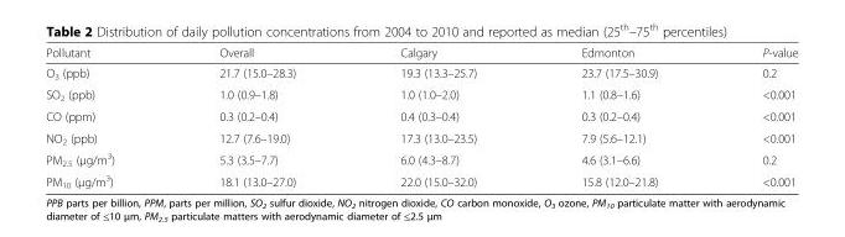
<table><thead><tr><td>Pollutant</td><td>Overall</td><td>Calgary</td><td>Edmonton</td><td>P-value</td></tr></thead><tbody><tr><td>O<sub>3</sub> (ppb)</td><td>21.7 (15.0–28.3)</td><td>19.3 (13.3–25.7)</td><td>23.7 (17.5–30.9)</td><td>0.2</td></tr><tr><td>SO<sub>2</sub> (ppb)</td><td>1.0 (0.9–1.8)</td><td>1.0 (1.0–2.0)</td><td>1.1 (0.8–1.6)</td><td>&lt;0.001</td></tr><tr><td>CO (ppm)</td><td>0.3 (0.2–0.4)</td><td>0.4 (0.3–0.4)</td><td>0.3 (0.2–0.4)</td><td>&lt;0.001</td></tr><tr><td>NO<sub>2</sub> (ppb)</td><td>12.7 (7.6–19.0)</td><td>17.3 (13.0–23.5)</td><td>7.9 (5.6–12.1)</td><td>&lt;0.001</td></tr><tr><td>PM<sub>2.5</sub> (μg/m<sup>3</sup>)</td><td>5.3 (3.5–7.7)</td><td>6.0 (4.3–8.7)</td><td>4.6 (3.1–6.6)</td><td>0.2</td></tr><tr><td>PM<sub>10</sub> (μg/m<sup>3</sup>)</td><td>18.1 (13.0–27.0)</td><td>22.0 (15.0–32.0)</td><td>15.8 (12.0–21.8)</td><td>&lt;0.001</td></tr></tbody></table>